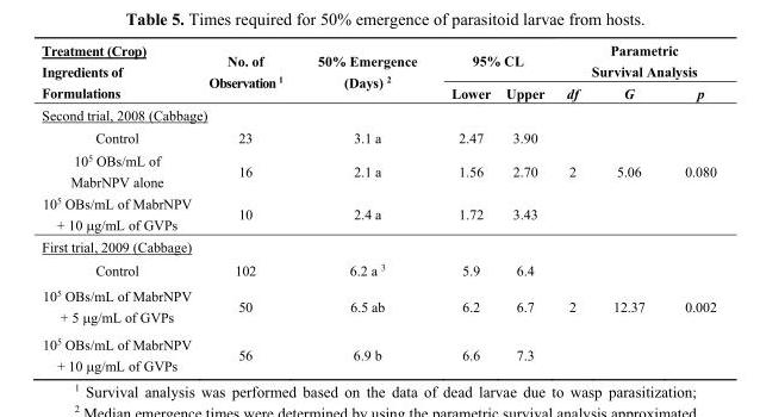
<table><thead><tr><td rowspan="2">Treatment (Crop) Ingredients of Formulations</td><td rowspan="2">No. of Observation <sup>1</sup></td><td rowspan="2">50% Emergence (Days) <sup>2</sup></td><td colspan="2">95% CL</td><td colspan="3">Parametric Survival Analysis</td></tr><tr><td>Lower</td><td>Upper</td><td>df</td><td>G</td><td>p</td></tr></thead><tbody><tr><td colspan="8">Second trial, 2008 (Cabbage)</td></tr><tr><td>Control</td><td>23</td><td>3.1 a</td><td>2.47</td><td>3.90</td><td></td><td></td><td></td></tr><tr><td>10<sup>5</sup> OBs/mL of MabrNPV alone</td><td>16</td><td>2.1 a</td><td>1.56</td><td>2.70</td><td>2</td><td>5.06</td><td>0.080</td></tr><tr><td>10<sup>5</sup> OBs/mL of MabrNPV + 10 μg/mL of GVPs</td><td>10</td><td>2.4 a</td><td>1.72</td><td>3.43</td><td></td><td></td><td></td></tr><tr><td colspan="8">First trial, 2009 (Cabbage)</td></tr><tr><td>Control</td><td>102</td><td>6.2 a <sup>3</sup></td><td>5.9</td><td>6.4</td><td></td><td></td><td></td></tr><tr><td>10<sup>5</sup> OBs/mL of MabrNPV + 5 μg/mL of GVPs</td><td>50</td><td>6.5 ab</td><td>6.2</td><td>6.7</td><td>2</td><td>12.37</td><td>0.002</td></tr><tr><td>10<sup>5</sup> OBs/mL of MabrNPV + 10 μg/mL of GVPs</td><td>56</td><td>6.9 b</td><td>6.6</td><td>7.3</td><td></td><td></td><td></td></tr></tbody></table>